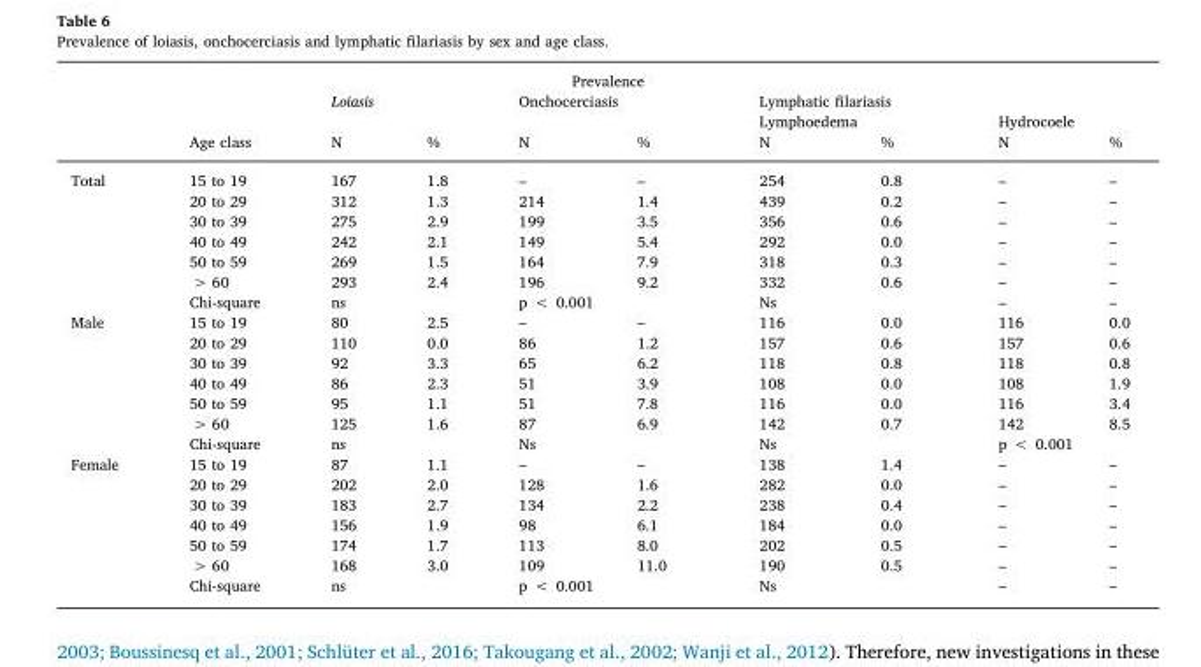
<table><thead><tr><td colspan="10">Prevalence</td></tr><tr><td rowspan="3"></td><td rowspan="3">Age class</td><td rowspan="2" colspan="2">Loiasis</td><td rowspan="2" colspan="2">Onchocerciasis</td><td colspan="4">Lymphatic filariasis</td></tr><tr><td colspan="2">Lymphoedema</td><td colspan="2">Hydrocoele</td></tr><tr><td>N</td><td>%</td><td>N</td><td>%</td><td>N</td><td>%</td><td>N</td><td>%</td></tr></thead><tbody><tr><td rowspan="7">Total</td><td>15 to 19</td><td>167</td><td>1.8</td><td>–</td><td>–</td><td>254</td><td>0.8</td><td>–</td><td>–</td></tr><tr><td>20 to 29</td><td>312</td><td>1.3</td><td>214</td><td>1.4</td><td>439</td><td>0.2</td><td>–</td><td>–</td></tr><tr><td>30 to 39</td><td>275</td><td>2.9</td><td>199</td><td>3.5</td><td>356</td><td>0.6</td><td>–</td><td>–</td></tr><tr><td>40 to 49</td><td>242</td><td>2.1</td><td>149</td><td>5.4</td><td>292</td><td>0.0</td><td>–</td><td>–</td></tr><tr><td>50 to 59</td><td>269</td><td>1.5</td><td>164</td><td>7.9</td><td>318</td><td>0.3</td><td>–</td><td>–</td></tr><tr><td>&gt; 60</td><td>293</td><td>2.4</td><td>196</td><td>9.2</td><td>332</td><td>0.6</td><td>–</td><td>–</td></tr><tr><td>Chi-square</td><td colspan="2">ns</td><td colspan="2">p &lt; 0.001</td><td colspan="2">Ns</td><td>–</td><td>–</td></tr><tr><td rowspan="7">Male</td><td>15 to 19</td><td>80</td><td>2.5</td><td>–</td><td>–</td><td>116</td><td>0.0</td><td>116</td><td>0.0</td></tr><tr><td>20 to 29</td><td>110</td><td>0.0</td><td>86</td><td>1.2</td><td>157</td><td>0.6</td><td>157</td><td>0.6</td></tr><tr><td>30 to 39</td><td>92</td><td>3.3</td><td>65</td><td>6.2</td><td>118</td><td>0.8</td><td>118</td><td>0.8</td></tr><tr><td>40 to 49</td><td>86</td><td>2.3</td><td>51</td><td>3.9</td><td>108</td><td>0.0</td><td>108</td><td>1.9</td></tr><tr><td>50 to 59</td><td>95</td><td>1.1</td><td>51</td><td>7.8</td><td>116</td><td>0.0</td><td>116</td><td>3.4</td></tr><tr><td>&gt; 60</td><td>125</td><td>1.6</td><td>87</td><td>6.9</td><td>142</td><td>0.7</td><td>142</td><td>8.5</td></tr><tr><td>Chi-square</td><td colspan="2">ns</td><td colspan="2">Ns</td><td colspan="2">Ns</td><td colspan="2">p &lt; 0.001</td></tr><tr><td rowspan="7">Female</td><td>15 to 19</td><td>87</td><td>1.1</td><td>–</td><td>–</td><td>138</td><td>1.4</td><td>–</td><td>–</td></tr><tr><td>20 to 29</td><td>202</td><td>2.0</td><td>128</td><td>1.6</td><td>282</td><td>0.0</td><td>–</td><td>–</td></tr><tr><td>30 to 39</td><td>183</td><td>2.7</td><td>134</td><td>2.2</td><td>238</td><td>0.4</td><td>–</td><td>–</td></tr><tr><td>40 to 49</td><td>156</td><td>1.9</td><td>98</td><td>6.1</td><td>184</td><td>0.0</td><td>–</td><td>–</td></tr><tr><td>50 to 59</td><td>174</td><td>1.7</td><td>113</td><td>8.0</td><td>202</td><td>0.5</td><td>–</td><td>–</td></tr><tr><td>&gt; 60</td><td>168</td><td>3.0</td><td>109</td><td>11.0</td><td>190</td><td>0.5</td><td>–</td><td>–</td></tr><tr><td>Chi-square</td><td colspan="2">ns</td><td colspan="2">p &lt; 0.001</td><td colspan="2">Ns</td><td>–</td><td>–</td></tr></tbody></table>